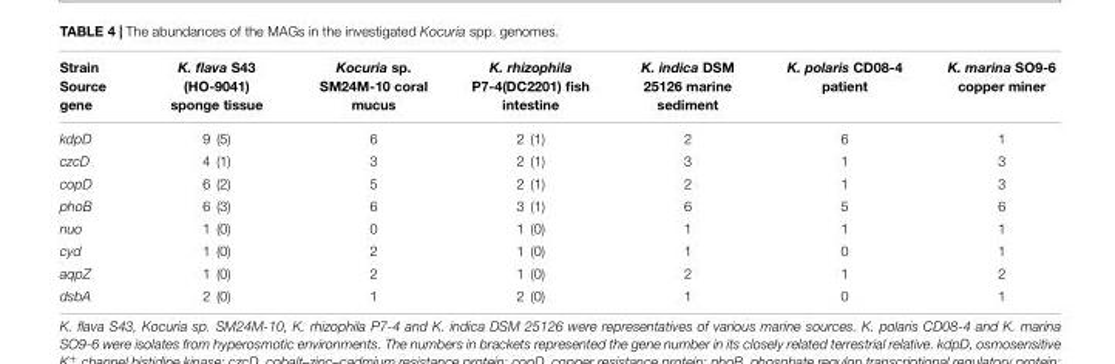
<table><thead><tr><td>Strain Source gene</td><td>K. flava S43 (HO-9041) sponge tissue</td><td>Kocuria sp. SM24M-10 coral mucus</td><td>K. rhizophila P7-4(DC2201) fish intestine</td><td>K. indica DSM 25126 marine sediment</td><td>K. polaris CD08-4 patient</td><td>K. marina SO9-6 copper miner</td></tr></thead><tbody><tr><td>kdpD</td><td>9 (5)</td><td>6</td><td>2 (1)</td><td>2</td><td>6</td><td>1</td></tr><tr><td>czcD</td><td>4 (1)</td><td>3</td><td>2 (1)</td><td>3</td><td>1</td><td>3</td></tr><tr><td>copD</td><td>6 (2)</td><td>5</td><td>2 (1)</td><td>2</td><td>1</td><td>3</td></tr><tr><td>phoB</td><td>6 (3)</td><td>6</td><td>3 (1)</td><td>6</td><td>5</td><td>6</td></tr><tr><td>nuo</td><td>1 (0)</td><td>0</td><td>1 (0)</td><td>1</td><td>1</td><td>1</td></tr><tr><td>cyd</td><td>1 (0)</td><td>2</td><td>1 (0)</td><td>1</td><td>0</td><td>1</td></tr><tr><td>aqpZ</td><td>1 (0)</td><td>2</td><td>1 (0)</td><td>2</td><td>1</td><td>2</td></tr><tr><td>dsbA</td><td>2 (0)</td><td>1</td><td>2 (0)</td><td>1</td><td>0</td><td>1</td></tr></tbody></table>